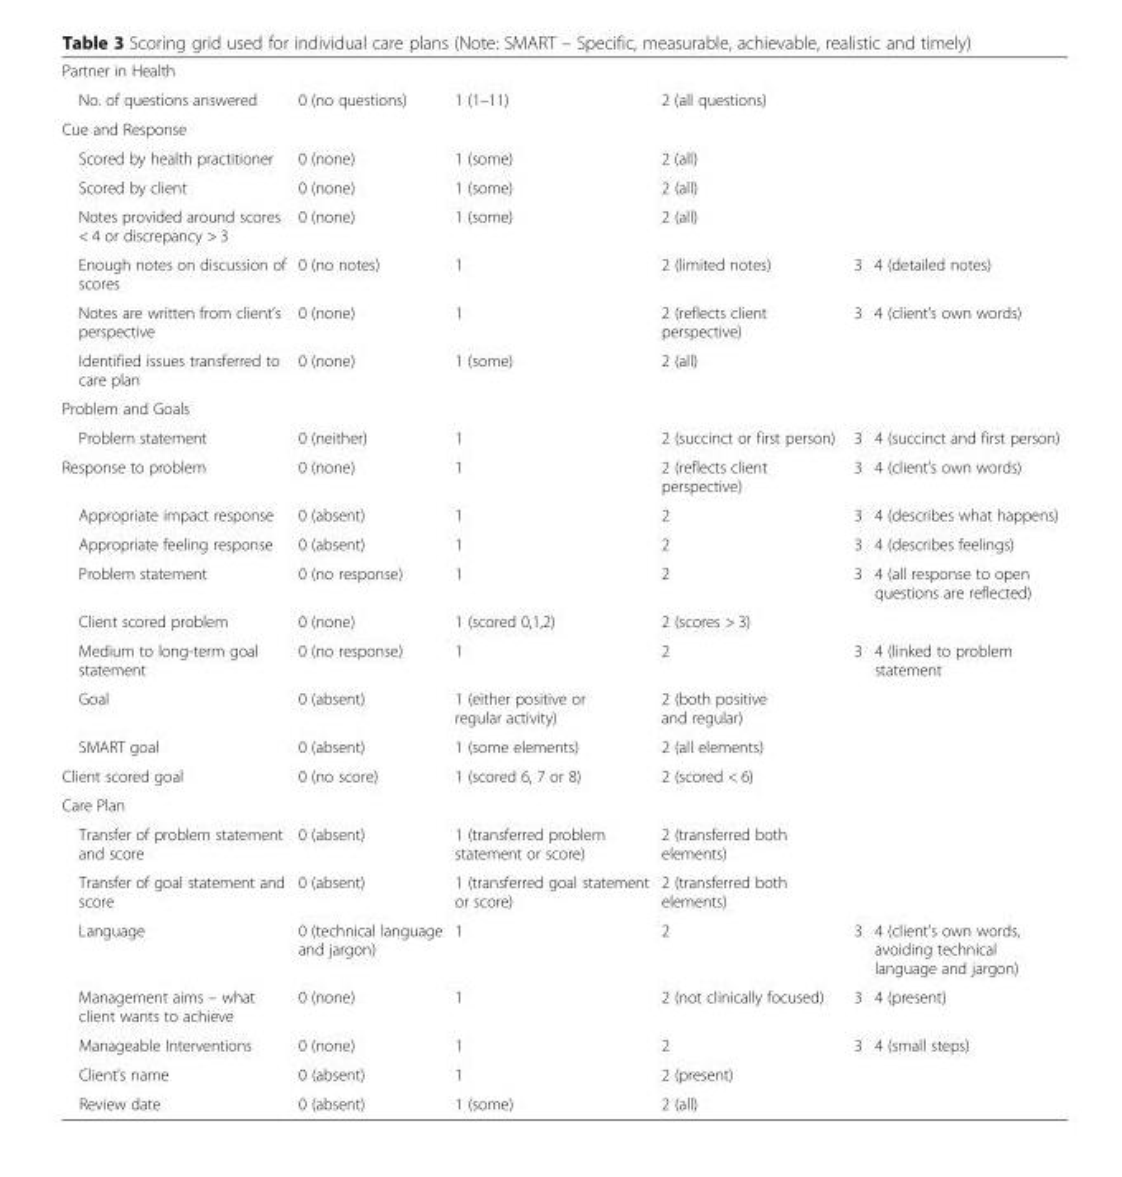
<table><tbody><tr><td colspan="6">Partner in Health</td></tr><tr><td>No. of questions answered</td><td>0 (no questions)</td><td>1 (1–11)</td><td>2 (all questions)</td><td></td><td></td></tr><tr><td colspan="6">Cue and Response</td></tr><tr><td>Scored by health practitioner</td><td>0 (none)</td><td>1 (some)</td><td>2 (all)</td><td></td><td></td></tr><tr><td>Scored by client</td><td>0 (none)</td><td>1 (some)</td><td>2 (all)</td><td></td><td></td></tr><tr><td>Notes provided around scores &lt; 4 or discrepancy &gt; 3</td><td>0 (none)</td><td>1 (some)</td><td>2 (all)</td><td></td><td></td></tr><tr><td>Enough notes on discussion of scores</td><td>0 (no notes)</td><td>1</td><td>2 (limited notes)</td><td>3</td><td>4 (detailed notes)</td></tr><tr><td>Notes are written from client’s perspective</td><td>0 (none)</td><td>1</td><td>2 (reflects client perspective)</td><td>3</td><td>4 (client’s own words)</td></tr><tr><td>Identified issues transferred to care plan</td><td>0 (none)</td><td>1 (some)</td><td>2 (all)</td><td></td><td></td></tr><tr><td colspan="6">Problem and Goals</td></tr><tr><td>Problem statement</td><td>0 (neither)</td><td>1</td><td>2 (succinct or first person)</td><td>3</td><td>4 (succinct and first person)</td></tr><tr><td>Response to problem</td><td>0 (none)</td><td>1</td><td>2 (reflects client perspective)</td><td>3</td><td>4 (client’s own words)</td></tr><tr><td>Appropriate impact response</td><td>0 (absent)</td><td>1</td><td>2</td><td>3</td><td>4 (describes what happens)</td></tr><tr><td>Appropriate feeling response</td><td>0 (absent)</td><td>1</td><td>2</td><td>3</td><td>4 (describes feelings)</td></tr><tr><td>Problem statement</td><td>0 (no response)</td><td>1</td><td>2</td><td>3</td><td>4 (all response to open questions are reflected)</td></tr><tr><td>Client scored problem</td><td>0 (none)</td><td>1 (scored 0,1,2)</td><td>2 (scores &gt; 3)</td><td></td><td></td></tr><tr><td>Medium to long-term goal statement</td><td>0 (no response)</td><td>1</td><td>2</td><td>3</td><td>4 (linked to problem statement</td></tr><tr><td>Goal</td><td>0 (absent)</td><td>1 (either positive or regular activity)</td><td>2 (both positive and regular)</td><td></td><td></td></tr><tr><td>SMART goal</td><td>0 (absent)</td><td>1 (some elements)</td><td>2 (all elements)</td><td></td><td></td></tr><tr><td>Client scored goal</td><td>0 (no score)</td><td>1 (scored 6, 7 or 8)</td><td>2 (scored &lt; 6)</td><td></td><td></td></tr><tr><td colspan="6">Care Plan</td></tr><tr><td>Transfer of problem statement and score</td><td>0 (absent)</td><td>1 (transferred problem statement or score)</td><td>2 (transferred both elements)</td><td></td><td></td></tr><tr><td>Transfer of goal statement and score</td><td>0 (absent)</td><td>1 (transferred goal statement or score)</td><td>2 (transferred both elements)</td><td></td><td></td></tr><tr><td>Language</td><td>0 (technical language and jargon)</td><td>1</td><td>2</td><td>3</td><td>4 (client’s own words, avoiding technical language and jargon)</td></tr><tr><td>Management aims – what client wants to achieve</td><td>0 (none)</td><td>1</td><td>2 (not clinically focused)</td><td>3</td><td>4 (present)</td></tr><tr><td>Manageable Interventions</td><td>0 (none)</td><td>1</td><td>2</td><td>3</td><td>4 (small steps)</td></tr><tr><td>Client’s name</td><td>0 (absent)</td><td>1</td><td>2 (present)</td><td></td><td></td></tr><tr><td>Review date</td><td>0 (absent)</td><td>1 (some)</td><td>2 (all)</td><td></td><td></td></tr></tbody></table>